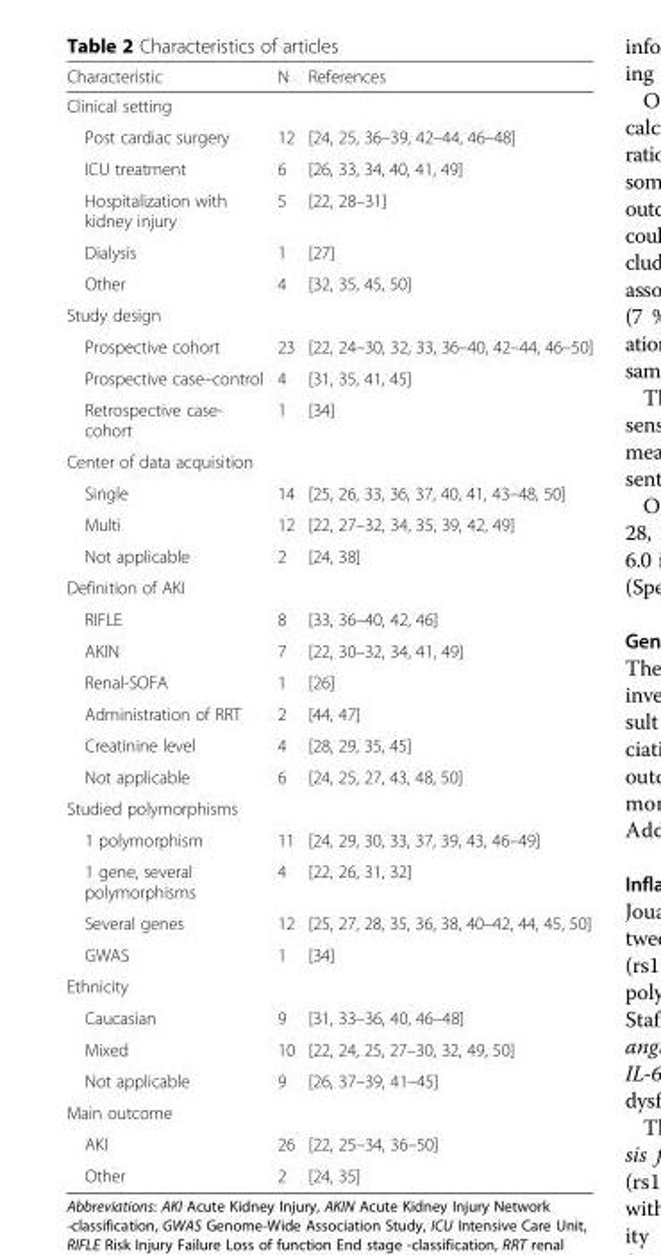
<table><thead><tr><td>Characteristic</td><td>N</td><td>References</td></tr></thead><tbody><tr><td colspan="3">Clinical setting</td></tr><tr><td>Post cardiac surgery</td><td>12</td><td>[24, 25, 36–39, 42–44, 46–48]</td></tr><tr><td>ICU treatment</td><td>6</td><td>[26, 33, 34, 40, 41, 49]</td></tr><tr><td>Hospitalization with kidney injury</td><td>5</td><td>[22, 28–31]</td></tr><tr><td>Dialysis</td><td>1</td><td>[27]</td></tr><tr><td>Other</td><td>4</td><td>[32, 35, 45, 50]</td></tr><tr><td colspan="3">Study design</td></tr><tr><td>Prospective cohort</td><td>23</td><td>[22, 24–30, 32, 33, 36–40, 42–44, 46–50]</td></tr><tr><td>Prospective case–control</td><td>4</td><td>[31, 35, 41, 45]</td></tr><tr><td>Retrospective case- cohort</td><td>1</td><td>[34]</td></tr><tr><td colspan="3">Center of data acquisition</td></tr><tr><td>Single</td><td>14</td><td>[25, 26, 33, 36, 37, 40, 41, 43–48, 50]</td></tr><tr><td>Multi</td><td>12</td><td>[22, 27–32, 34, 35, 39, 42, 49]</td></tr><tr><td>Not applicable</td><td>2</td><td>[24, 38]</td></tr><tr><td colspan="3">Definition of AKI</td></tr><tr><td>RIFLE</td><td>8</td><td>[33, 36–40, 42, 46]</td></tr><tr><td>AKIN</td><td>7</td><td>[22, 30–32, 34, 41, 49]</td></tr><tr><td>Renal-SOFA</td><td>1</td><td>[26]</td></tr><tr><td>Administration of RRT</td><td>2</td><td>[44, 47]</td></tr><tr><td>Creatinine level</td><td>4</td><td>[28, 29, 35, 45]</td></tr><tr><td>Not applicable</td><td>6</td><td>[24, 25, 27, 43, 48, 50]</td></tr><tr><td colspan="3">Studied polymorphisms</td></tr><tr><td>1 polymorphism</td><td>11</td><td>[24, 29, 30, 33, 37, 39, 43, 46–49]</td></tr><tr><td>1 gene, several polymorphisms</td><td>4</td><td>[22, 26, 31, 32]</td></tr><tr><td>Several genes</td><td>12</td><td>[25, 27, 28, 35, 36, 38, 40–42, 44, 45, 50]</td></tr><tr><td>GWAS</td><td>1</td><td>[34]</td></tr><tr><td colspan="3">Ethnicity</td></tr><tr><td>Caucasian</td><td>9</td><td>[31, 33–36, 40, 46–48]</td></tr><tr><td>Mixed</td><td>10</td><td>[22, 24, 25, 27–30, 32, 49, 50]</td></tr><tr><td>Not applicable</td><td>9</td><td>[26, 37–39, 41–45]</td></tr><tr><td colspan="3">Main outcome</td></tr><tr><td>AKI</td><td>26</td><td>[22, 25–34, 36–50]</td></tr><tr><td>Other</td><td>2</td><td>[24, 35]</td></tr></tbody></table>